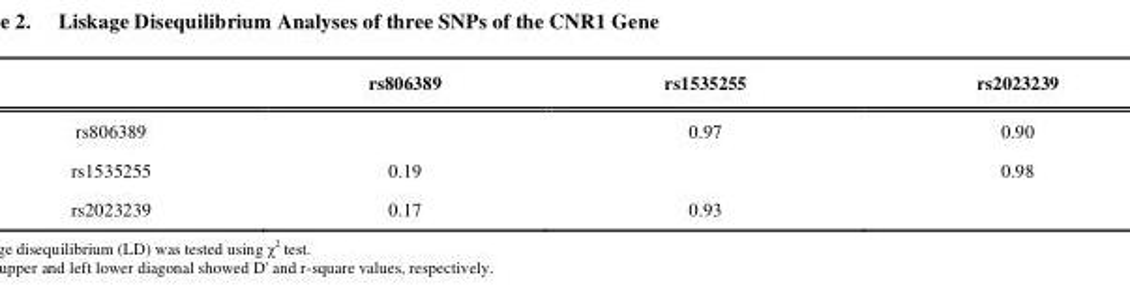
<table><thead><tr><td></td><td>rs806389</td><td>rs1535255</td><td>rs2023239</td></tr></thead><tbody><tr><td>rs806389</td><td></td><td>0.97</td><td>0.90</td></tr><tr><td>rs1535255</td><td>0.19</td><td></td><td>0.98</td></tr><tr><td>rs2023239</td><td>0.17</td><td>0.93</td><td></td></tr></tbody></table>